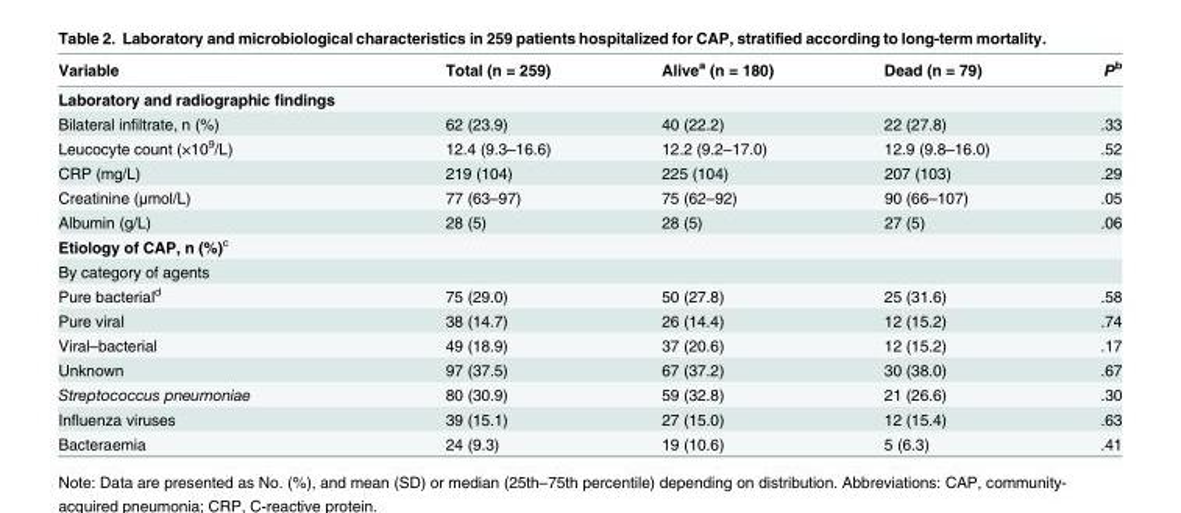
<table><thead><tr><td>Variable</td><td>Total (n = 259)</td><td>Alive<sup>a</sup> (n = 180)</td><td>Dead (n = 79)</td><td>P<sup>b</sup></td></tr></thead><tbody><tr><td colspan="5">Laboratory and radiographic findings</td></tr><tr><td>Bilateral infiltrate, n (%)</td><td>62 (23.9)</td><td>40 (22.2)</td><td>22 (27.8)</td><td>.33</td></tr><tr><td>Leucocyte count (×10<sup>9</sup>/L)</td><td>12.4 (9.3–16.6)</td><td>12.2 (9.2–17.0)</td><td>12.9 (9.8–16.0)</td><td>.52</td></tr><tr><td>CRP (mg/L)</td><td>219 (104)</td><td>225 (104)</td><td>207 (103)</td><td>.29</td></tr><tr><td>Creatinine (μmol/L)</td><td>77 (63–97)</td><td>75 (62–92)</td><td>90 (66–107)</td><td>.05</td></tr><tr><td>Albumin (g/L)</td><td>28 (5)</td><td>28 (5)</td><td>27 (5)</td><td>.06</td></tr><tr><td colspan="5">Etiology of CAP, n (%)<sup>c</sup></td></tr><tr><td colspan="5">By category of agents</td></tr><tr><td>Pure bacterial<sup>d</sup></td><td>75 (29.0)</td><td>50 (27.8)</td><td>25 (31.6)</td><td>.58</td></tr><tr><td>Pure viral</td><td>38 (14.7)</td><td>26 (14.4)</td><td>12 (15.2)</td><td>.74</td></tr><tr><td>Viral–bacterial</td><td>49 (18.9)</td><td>37 (20.6)</td><td>12 (15.2)</td><td>.17</td></tr><tr><td>Unknown</td><td>97 (37.5)</td><td>67 (37.2)</td><td>30 (38.0)</td><td>.67</td></tr><tr><td>Streptococcus pneumoniae</td><td>80 (30.9)</td><td>59 (32.8)</td><td>21 (26.6)</td><td>.30</td></tr><tr><td>Influenza viruses</td><td>39 (15.1)</td><td>27 (15.0)</td><td>12 (15.4)</td><td>.63</td></tr><tr><td>Bacteraemia</td><td>24 (9.3)</td><td>19 (10.6)</td><td>5 (6.3)</td><td>.41</td></tr></tbody></table>